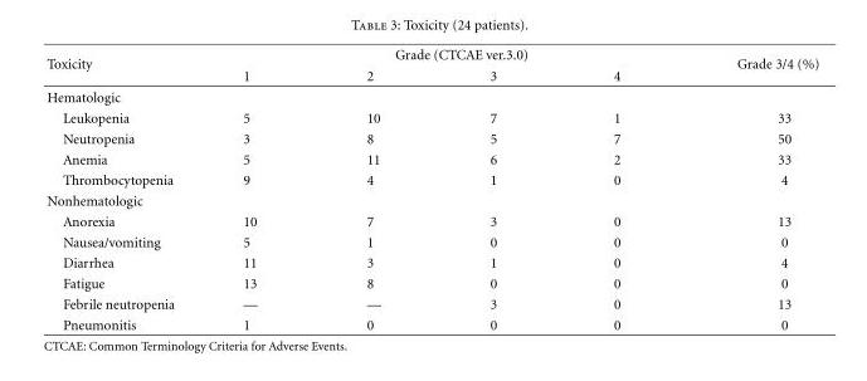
<table><thead><tr><td rowspan="2">Toxicity</td><td colspan="4">Grade (CTCAE ver.3.0)</td><td rowspan="2">Grade 3/4 (%)</td></tr><tr><td>1</td><td>2</td><td>3</td><td>4</td></tr></thead><tbody><tr><td colspan="6">Hematologic</td></tr><tr><td>Leukopenia</td><td>5</td><td>10</td><td>7</td><td>1</td><td>33</td></tr><tr><td>Neutropenia</td><td>3</td><td>8</td><td>5</td><td>7</td><td>50</td></tr><tr><td>Anemia</td><td>5</td><td>11</td><td>6</td><td>2</td><td>33</td></tr><tr><td>Thrombocytopenia</td><td>9</td><td>4</td><td>1</td><td>0</td><td>4</td></tr><tr><td colspan="6">Nonhematologic</td></tr><tr><td>Anorexia</td><td>10</td><td>7</td><td>3</td><td>0</td><td>13</td></tr><tr><td>Nausea/vomiting</td><td>5</td><td>1</td><td>0</td><td>0</td><td>0</td></tr><tr><td>Diarrhea</td><td>11</td><td>3</td><td>1</td><td>0</td><td>4</td></tr><tr><td>Fatigue</td><td>13</td><td>8</td><td>0</td><td>0</td><td>0</td></tr><tr><td>Febrile neutropenia</td><td>—</td><td>—</td><td>3</td><td>0</td><td>13</td></tr><tr><td>Pneumonitis</td><td>1</td><td>0</td><td>0</td><td>0</td><td>0</td></tr></tbody></table>